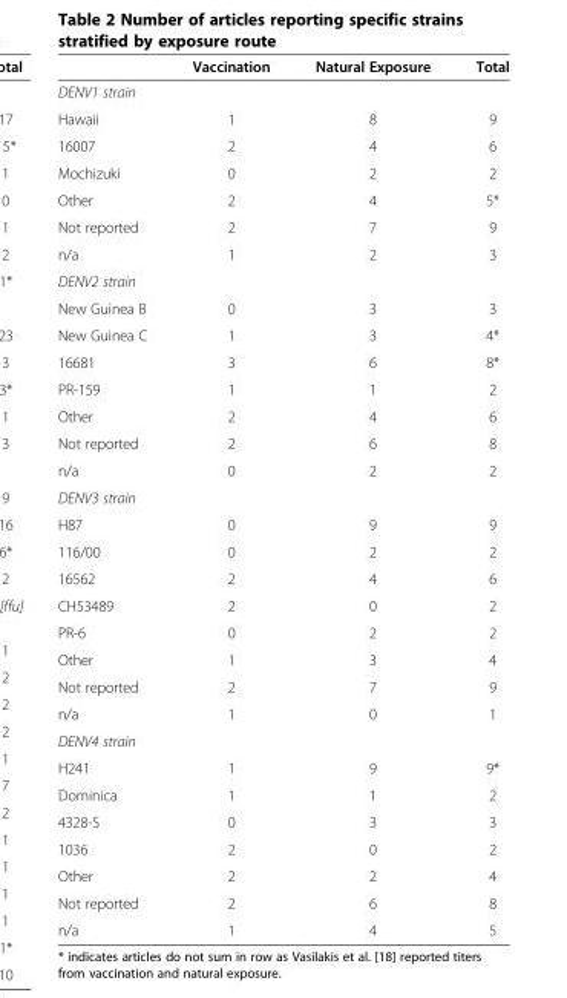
<table><thead><tr><td></td><td>Vaccination</td><td>Natural Exposure</td><td>Total</td></tr></thead><tbody><tr><td colspan="4">DENV1 strain</td></tr><tr><td>Hawaii</td><td>1</td><td>8</td><td>9</td></tr><tr><td>16007</td><td>2</td><td>4</td><td>6</td></tr><tr><td>Mochizuki</td><td>0</td><td>2</td><td>2</td></tr><tr><td>Other</td><td>2</td><td>4</td><td>5*</td></tr><tr><td>Not reported</td><td>2</td><td>7</td><td>9</td></tr><tr><td>n/a</td><td>1</td><td>2</td><td>3</td></tr><tr><td colspan="4">DENV2 strain</td></tr><tr><td>New Guinea B</td><td>0</td><td>3</td><td>3</td></tr><tr><td>New Guinea C</td><td>1</td><td>3</td><td>4*</td></tr><tr><td>16681</td><td>3</td><td>6</td><td>8*</td></tr><tr><td>PR-159</td><td>1</td><td>1</td><td>2</td></tr><tr><td>Other</td><td>2</td><td>4</td><td>6</td></tr><tr><td>Not reported</td><td>2</td><td>6</td><td>8</td></tr><tr><td>n/a</td><td>0</td><td>2</td><td>2</td></tr><tr><td colspan="4">DENV3 strain</td></tr><tr><td>H87</td><td>0</td><td>9</td><td>9</td></tr><tr><td>116/00</td><td>0</td><td>2</td><td>2</td></tr><tr><td>16562</td><td>2</td><td>4</td><td>6</td></tr><tr><td>CH53489</td><td>2</td><td>0</td><td>2</td></tr><tr><td>PR-6</td><td>0</td><td>2</td><td>2</td></tr><tr><td>Other</td><td>1</td><td>3</td><td>4</td></tr><tr><td>Not reported</td><td>2</td><td>7</td><td>9</td></tr><tr><td>n/a</td><td>1</td><td>0</td><td>1</td></tr><tr><td colspan="4">DENV4 strain</td></tr><tr><td>H241</td><td>1</td><td>9</td><td>9*</td></tr><tr><td>Dominica</td><td>1</td><td>1</td><td>2</td></tr><tr><td>4328-S</td><td>0</td><td>3</td><td>3</td></tr><tr><td>1036</td><td>2</td><td>0</td><td>2</td></tr><tr><td>Other</td><td>2</td><td>2</td><td>4</td></tr><tr><td>Not reported</td><td>2</td><td>6</td><td>8</td></tr><tr><td>n/a</td><td>1</td><td>4</td><td>5</td></tr></tbody></table>